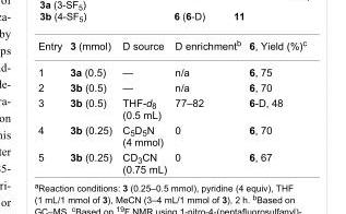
<table><tbody><tr><td>Entry</td><td>3 (mmol)</td><td>D source</td><td>D enrichment<sup>b</sup></td><td>6, Yield (%)<sup>c</sup></td></tr><tr><td>1</td><td>3a (0.5)</td><td>—</td><td>n/a</td><td>6, 75</td></tr><tr><td>2</td><td>3b (0.5)</td><td>—</td><td>n/a</td><td>6, 70</td></tr><tr><td>3</td><td>3b (0.5)</td><td>THF-d<sub>8</sub> (0.5 mL)</td><td>77–82</td><td>6-D, 48</td></tr><tr><td>4</td><td>3b (0.25)</td><td>C<sub>5</sub>D<sub>5</sub>N (4 mmol)</td><td>0</td><td>6, 70</td></tr><tr><td>5</td><td>3b (0.25)</td><td>CD<sub>3</sub>CN (0.75 mL)</td><td>0</td><td>6, 67</td></tr></tbody></table>